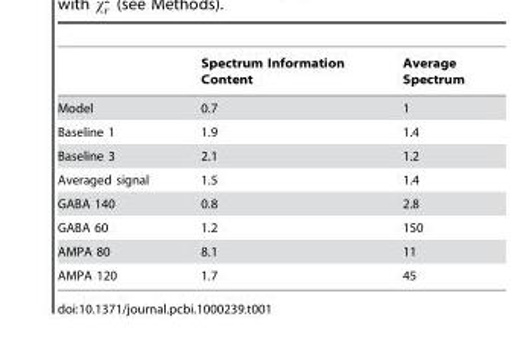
<table><thead><tr><td></td><td>Spectrum Information Content</td><td>Average Spectrum</td></tr></thead><tbody><tr><td>Model</td><td>0.7</td><td>1</td></tr><tr><td>Baseline 1</td><td>1.9</td><td>1.4</td></tr><tr><td>Baseline 3</td><td>2.1</td><td>1.2</td></tr><tr><td>Averaged signal</td><td>1.5</td><td>1.4</td></tr><tr><td>GABA 140</td><td>0.8</td><td>2.8</td></tr><tr><td>GABA 60</td><td>1.2</td><td>150</td></tr><tr><td>AMPA 80</td><td>8.1</td><td>11</td></tr><tr><td>AMPA 120</td><td>1.7</td><td>45</td></tr></tbody></table>